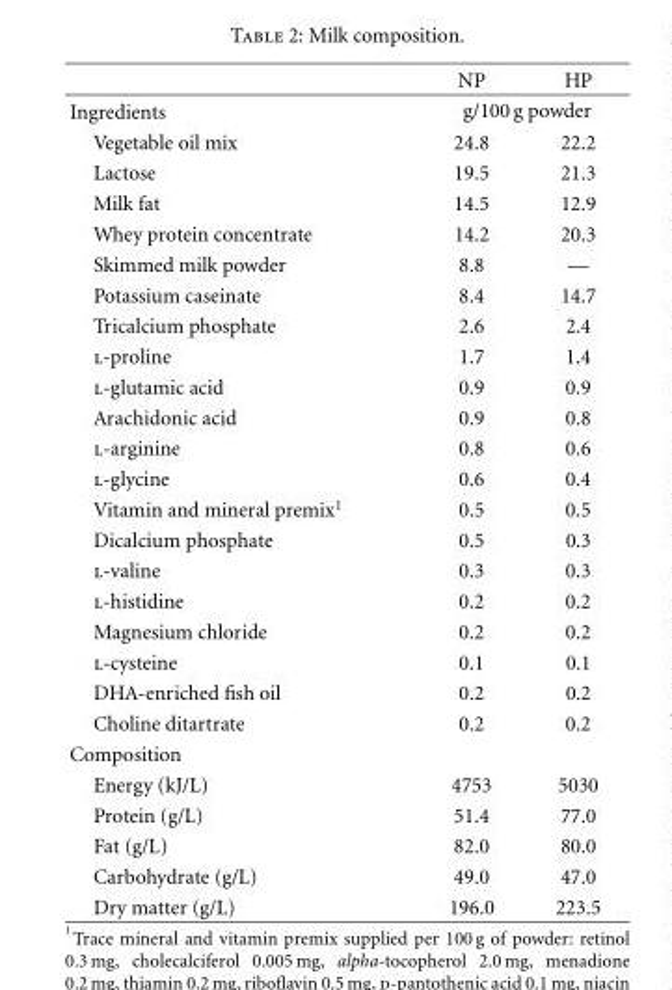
<table><thead><tr><td></td><td>NP</td><td>HP</td></tr></thead><tbody><tr><td>Ingredients</td><td colspan="2">g/100 g powder</td></tr><tr><td>Vegetable oil mix</td><td>24.8</td><td>22.2</td></tr><tr><td>Lactose</td><td>19.5</td><td>21.3</td></tr><tr><td>Milk fat</td><td>14.5</td><td>12.9</td></tr><tr><td>Whey protein concentrate</td><td>14.2</td><td>20.3</td></tr><tr><td>Skimmed milk powder</td><td>8.8</td><td>—</td></tr><tr><td>Potassium caseinate</td><td>8.4</td><td>14.7</td></tr><tr><td>Tricalcium phosphate</td><td>2.6</td><td>2.4</td></tr><tr><td>l-proline</td><td>1.7</td><td>1.4</td></tr><tr><td>l-glutamic acid</td><td>0.9</td><td>0.9</td></tr><tr><td>Arachidonic acid</td><td>0.9</td><td>0.8</td></tr><tr><td>l-arginine</td><td>0.8</td><td>0.6</td></tr><tr><td>l-glycine</td><td>0.6</td><td>0.4</td></tr><tr><td>Vitamin and mineral premix<sup>1</sup></td><td>0.5</td><td>0.5</td></tr><tr><td>Dicalcium phosphate</td><td>0.5</td><td>0.3</td></tr><tr><td>l-valine</td><td>0.3</td><td>0.3</td></tr><tr><td>l-histidine</td><td>0.2</td><td>0.2</td></tr><tr><td>Magnesium chloride</td><td>0.2</td><td>0.2</td></tr><tr><td>l-cysteine</td><td>0.1</td><td>0.1</td></tr><tr><td>DHA-enriched fish oil</td><td>0.2</td><td>0.2</td></tr><tr><td>Choline ditartrate</td><td>0.2</td><td>0.2</td></tr><tr><td colspan="3">Composition</td></tr><tr><td>Energy (kJ/L)</td><td>4753</td><td>5030</td></tr><tr><td>Protein (g/L)</td><td>51.4</td><td>77.0</td></tr><tr><td>Fat (g/L)</td><td>82.0</td><td>80.0</td></tr><tr><td>Carbohydrate (g/L)</td><td>49.0</td><td>47.0</td></tr><tr><td>Dry matter (g/L)</td><td>196.0</td><td>223.5</td></tr></tbody></table>